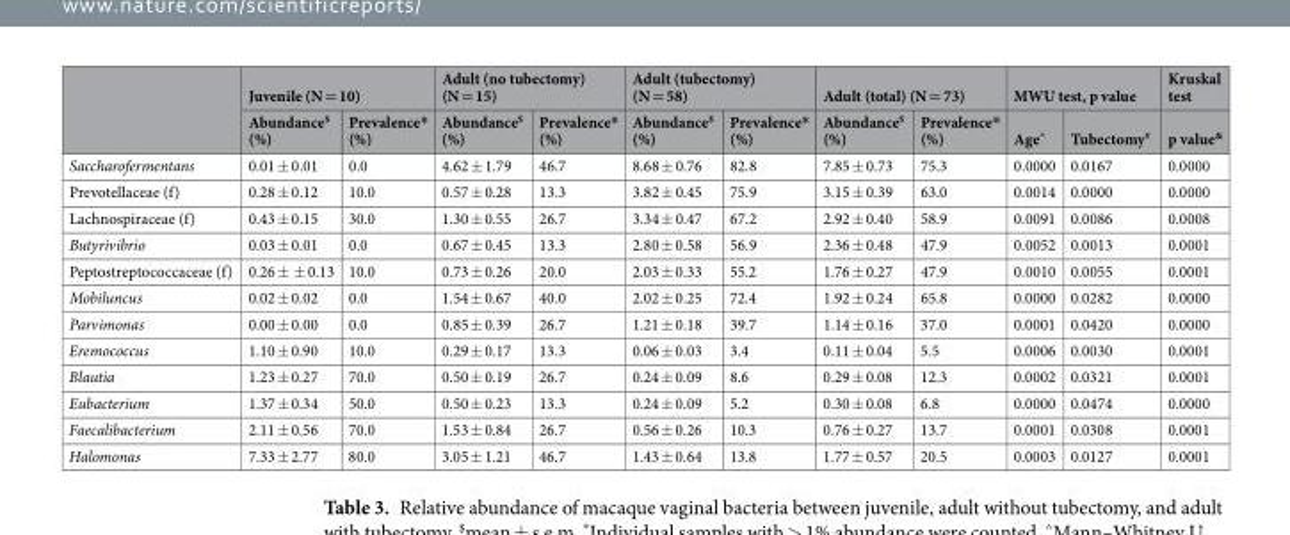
<table><thead><tr><td rowspan="2"></td><td colspan="2">Juvenile (N = 10)</td><td colspan="2">Adult (no tubectomy) (N = 15)</td><td colspan="2">Adult (tubectomy) (N = 58)</td><td colspan="2">Adult (total) (N = 73)</td><td colspan="2">MWU test, p value</td><td rowspan="2">Kruskal test p value<sup>&amp;</sup></td></tr><tr><td>Abundance<sup>$</sup> (%)</td><td>Prevalence* (%)</td><td>Abundance<sup>$</sup> (%)</td><td>Prevalence* (%)</td><td>Abundance<sup>$</sup> (%)</td><td>Prevalence* (%)</td><td>Abundance<sup>$</sup> (%)</td><td>Prevalence* (%)</td><td>Age<sup>^</sup></td><td>Tubectomy<sup>#</sup></td></tr></thead><tbody><tr><td>Saccharofermentans</td><td>0.01 ± 0.01</td><td>0.0</td><td>4.62 ± 1.79</td><td>46.7</td><td>8.68 ± 0.76</td><td>82.8</td><td>7.85 ± 0.73</td><td>75.3</td><td>0.0000</td><td>0.0167</td><td>0.0000</td></tr><tr><td>Prevotellaceae (f)</td><td>0.28 ± 0.12</td><td>10.0</td><td>0.57 ± 0.28</td><td>13.3</td><td>3.82 ± 0.45</td><td>75.9</td><td>3.15 ± 0.39</td><td>63.0</td><td>0.0014</td><td>0.0000</td><td>0.0000</td></tr><tr><td>Lachnospiraceae (f)</td><td>0.43 ± 0.15</td><td>30.0</td><td>1.30 ± 0.55</td><td>26.7</td><td>3.34 ± 0.47</td><td>67.2</td><td>2.92 ± 0.40</td><td>58.9</td><td>0.0091</td><td>0.0086</td><td>0.0008</td></tr><tr><td>Butyrivibrio</td><td>0.03 ± 0.01</td><td>0.0</td><td>0.67 ± 0.45</td><td>13.3</td><td>2.80 ± 0.58</td><td>56.9</td><td>2.36 ± 0.48</td><td>47.9</td><td>0.0052</td><td>0.0013</td><td>0.0001</td></tr><tr><td>Peptostreptococcaceae (f)</td><td>0.26 ± ± 0.13</td><td>10.0</td><td>0.73 ± 0.26</td><td>20.0</td><td>2.03 ± 0.33</td><td>55.2</td><td>1.76 ± 0.27</td><td>47.9</td><td>0.0010</td><td>0.0055</td><td>0.0001</td></tr><tr><td>Mobiluncus</td><td>0.02 ± 0.02</td><td>0.0</td><td>1.54 ± 0.67</td><td>40.0</td><td>2.02 ± 0.25</td><td>72.4</td><td>1.92 ± 0.24</td><td>65.8</td><td>0.0000</td><td>0.0282</td><td>0.0000</td></tr><tr><td>Parvimonas</td><td>0.00 ± 0.00</td><td>0.0</td><td>0.85 ± 0.39</td><td>26.7</td><td>1.21 ± 0.18</td><td>39.7</td><td>1.14 ± 0.16</td><td>37.0</td><td>0.0001</td><td>0.0420</td><td>0.0000</td></tr><tr><td>Eremococcus</td><td>1.10 ± 0.90</td><td>10.0</td><td>0.29 ± 0.17</td><td>13.3</td><td>0.06 ± 0.03</td><td>3.4</td><td>0.11 ± 0.04</td><td>5.5</td><td>0.0006</td><td>0.0030</td><td>0.0001</td></tr><tr><td>Blautia</td><td>1.23 ± 0.27</td><td>70.0</td><td>0.50 ± 0.19</td><td>26.7</td><td>0.24 ± 0.09</td><td>8.6</td><td>0.29 ± 0.08</td><td>12.3</td><td>0.0002</td><td>0.0321</td><td>0.0001</td></tr><tr><td>Eubacterium</td><td>1.37 ± 0.34</td><td>50.0</td><td>0.50 ± 0.23</td><td>13.3</td><td>0.24 ± 0.09</td><td>5.2</td><td>0.30 ± 0.08</td><td>6.8</td><td>0.0000</td><td>0.0474</td><td>0.0000</td></tr><tr><td>Faecalibacterium</td><td>2.11 ± 0.56</td><td>70.0</td><td>1.53 ± 0.84</td><td>26.7</td><td>0.56 ± 0.26</td><td>10.3</td><td>0.76 ± 0.27</td><td>13.7</td><td>0.0001</td><td>0.0308</td><td>0.0001</td></tr><tr><td>Halomonas</td><td>7.33 ± 2.77</td><td>80.0</td><td>3.05 ± 1.21</td><td>46.7</td><td>1.43 ± 0.64</td><td>13.8</td><td>1.77 ± 0.57</td><td>20.5</td><td>0.0003</td><td>0.0127</td><td>0.0001</td></tr></tbody></table>